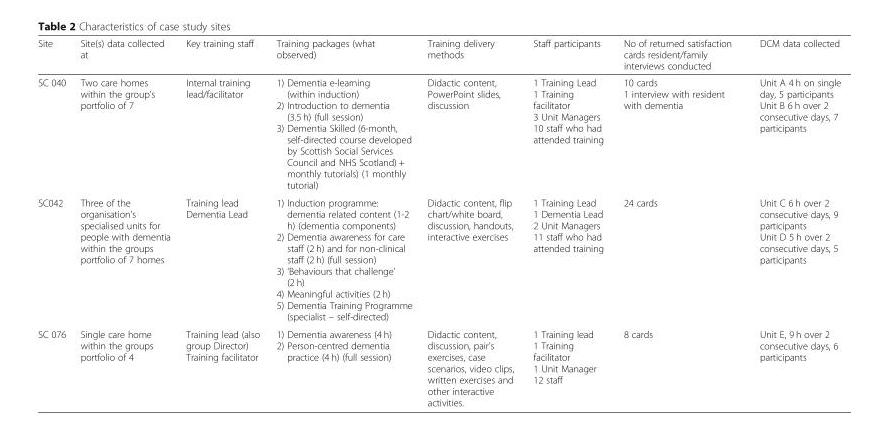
<table><thead><tr><td>Site</td><td>Site(s) data collected at</td><td>Key training staff</td><td>Training packages (what observed)</td><td>Training delivery methods</td><td>Staff participants</td><td>No of returned satisfaction cards resident/family interviews conducted</td><td>DCM data collected</td></tr></thead><tbody><tr><td>SC 040</td><td>Two care homes within the group’s portfolio of 7</td><td>Internal training lead/facilitator</td><td>1) Dementia e-learning (within induction) 2) Introduction to dementia (3.5 h) (full session) 3) Dementia Skilled (6-month, self-directed course developed by Scottish Social Services Council and NHS Scotland) + monthly tutorials) (1 monthly tutorial)</td><td>Didactic content, PowerPoint slides, discussion</td><td>1 Training Lead 1 Training facilitator 3 Unit Managers 10 staff who had attended training</td><td>10 cards 1 interview with resident with dementia</td><td>Unit A 4 h on single day, 5 participants Unit B 6 h over 2 consecutive days, 7 participants</td></tr><tr><td>SC042</td><td>Three of the organisation’s specialised units for people with dementia within the groups portfolio of 7 homes</td><td>Training lead Dementia Lead</td><td>1) Induction programme: dementia related content (1-2 h) (dementia components) 2) Dementia awareness for care staff (2 h) and for non-clinical staff (2 h) (full session) 3) ‘Behaviours that challenge’ (2 h) 4) Meaningful activities (2 h) 5) Dementia Training Programme (specialist – self-directed)</td><td>Didactic content, flip chart/white board, discussion, handouts, interactive exercises</td><td>1 Training Lead 1 Dementia Lead 2 Unit Managers 11 staff who had attended training</td><td>24 cards</td><td>Unit C 6 h over 2 consecutive days, 9 participants Unit D 5 h over 2 consecutive days, 5 participants</td></tr><tr><td>SC 076</td><td>Single care home within the groups portfolio of 4</td><td>Training lead (also group Director) Training facilitator</td><td>1) Dementia awareness (4 h) 2) Person-centred dementia practice (4 h) (full session)</td><td>Didactic content, discussion, pair’s exercises, case scenarios, video clips, written exercises and other interactive activities.</td><td>1 Training lead 1 Training facilitator 1 Unit Manager 12 staff</td><td>8 cards</td><td>Unit E, 9 h over 2 consecutive days, 6 participants</td></tr></tbody></table>